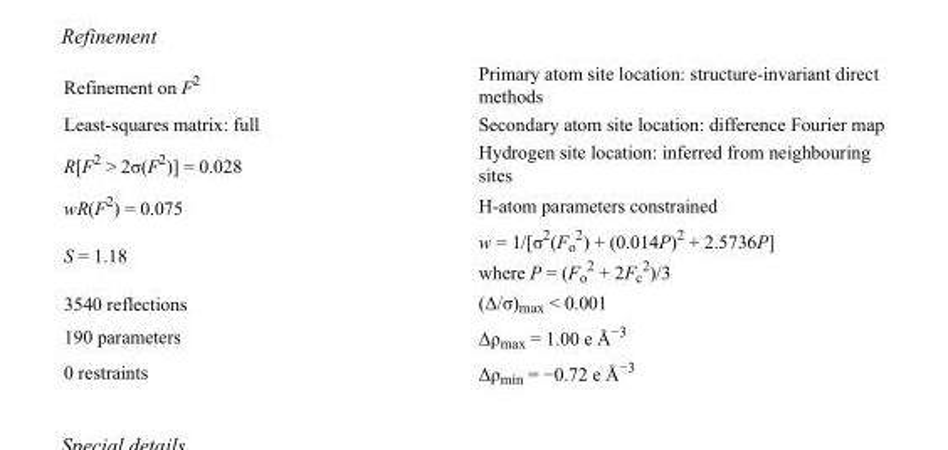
<table><tbody><tr><td>Refinement on F<sup>2</sup></td><td>Primary atom site location: structure-invariant direct methods</td></tr><tr><td>Least-squares matrix: full</td><td>Secondary atom site location: difference Fourier map</td></tr><tr><td>R[F<sup>2</sup> &gt; 2σ(F<sup>2</sup>)] = 0.028</td><td>Hydrogen site location: inferred from neighbouring sites</td></tr><tr><td>wR(F<sup>2</sup>) = 0.075</td><td>H-atom parameters constrained</td></tr><tr><td>S = 1.18</td><td>w = 1/[σ<sup>2</sup>(F<sub>o</sub> <sup>2</sup>) + (0.014P)<sup>2</sup> + 2.5736P] where P = (F<sub>o</sub> <sup>2</sup> + 2F<sub>c</sub> <sup>2</sup>)/3</td></tr><tr><td>3540 reflections</td><td>(Δ/σ)<sub>max</sub> &lt; 0.001</td></tr><tr><td>190 parameters</td><td>Δρ<sub>max</sub> = 1.00 e Å<sup>−3</sup></td></tr><tr><td>0 restraints</td><td>Δρ<sub>min</sub> = −0.72 e Å<sup>−3</sup></td></tr></tbody></table>